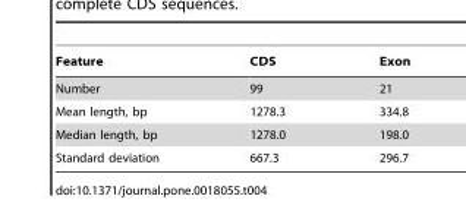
<table><thead><tr><td>Feature</td><td>CDS</td><td>Exon</td></tr></thead><tbody><tr><td>Number</td><td>99</td><td>21</td></tr><tr><td>Mean length, bp</td><td>1278.3</td><td>334.8</td></tr><tr><td>Median length, bp</td><td>1278.0</td><td>198.0</td></tr><tr><td>Standard deviation</td><td>667.3</td><td>296.7</td></tr></tbody></table>